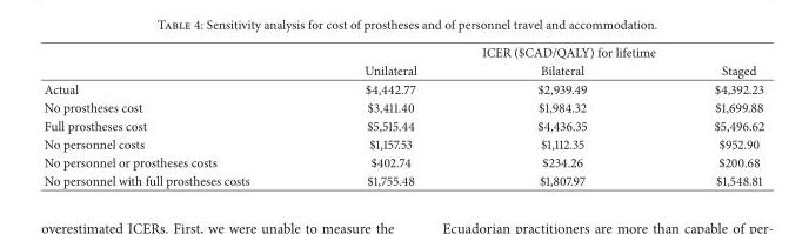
<table><thead><tr><td rowspan="2"></td><td colspan="3">ICER ($CAD/QALY) for lifetime</td></tr><tr><td>Unilateral</td><td>Bilateral</td><td>Staged</td></tr></thead><tbody><tr><td>Actual</td><td>$4,442.77</td><td>$2,939.49</td><td>$4,392.23</td></tr><tr><td>No prostheses cost</td><td>$3,411.40</td><td>$1,984.32</td><td>$1,699.88</td></tr><tr><td>Full prostheses cost</td><td>$5,515.44</td><td>$4,436.35</td><td>$5,496.62</td></tr><tr><td>No personnel costs</td><td>$1,157.53</td><td>$1,112.35</td><td>$952.90</td></tr><tr><td>No personnel or prostheses costs</td><td>$402.74</td><td>$234.26</td><td>$200.68</td></tr><tr><td>No personnel with full prostheses costs</td><td>$1,755.48</td><td>$1,807.97</td><td>$1,548.81</td></tr></tbody></table>